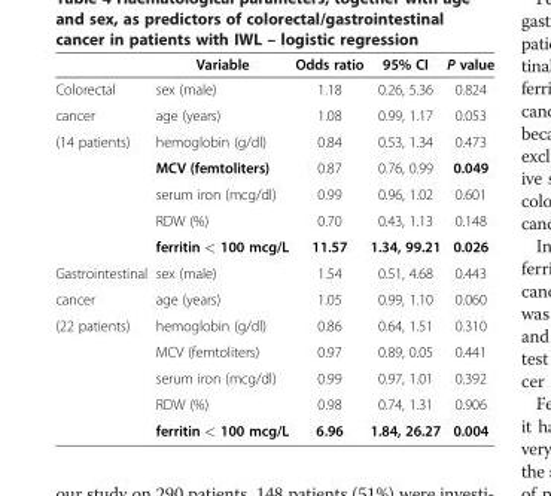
<table><thead><tr><td></td><td>Variable</td><td>Odds ratio</td><td>95% CI</td><td>P value</td></tr></thead><tbody><tr><td>Colorectal</td><td>sex (male)</td><td>1.18</td><td>0.26, 5.36</td><td>0.824</td></tr><tr><td>cancer</td><td>age (years)</td><td>1.08</td><td>0.99, 1.17</td><td>0.053</td></tr><tr><td rowspan="5">(14 patients)</td><td>hemoglobin (g/dl)</td><td>0.84</td><td>0.53, 1.34</td><td>0.473</td></tr><tr><td>MCV (femtoliters)</td><td>0.87</td><td>0.76, 0.99</td><td>0.049</td></tr><tr><td>serum iron (mcg/dl)</td><td>0.99</td><td>0.96, 1.02</td><td>0.601</td></tr><tr><td>RDW (%)</td><td>0.70</td><td>0.43, 1.13</td><td>0.148</td></tr><tr><td>ferritin &lt; 100 mcg/L</td><td>11.57</td><td>1.34, 99.21</td><td>0.026</td></tr><tr><td>Gastrointestinal</td><td>sex (male)</td><td>1.54</td><td>0.51, 4.68</td><td>0.443</td></tr><tr><td>cancer</td><td>age (years)</td><td>1.05</td><td>0.99, 1.10</td><td>0.060</td></tr><tr><td rowspan="5">(22 patients)</td><td>hemoglobin (g/dl)</td><td>0.86</td><td>0.64, 1.51</td><td>0.310</td></tr><tr><td>MCV (femtoliters)</td><td>0.97</td><td>0.89, 0.05</td><td>0.441</td></tr><tr><td>serum iron (mcg/dl)</td><td>0.99</td><td>0.97, 1.01</td><td>0.392</td></tr><tr><td>RDW (%)</td><td>0.98</td><td>0.74, 1.31</td><td>0.906</td></tr><tr><td>ferritin &lt; 100 mcg/L</td><td>6.96</td><td>1.84, 26.27</td><td>0.004</td></tr></tbody></table>